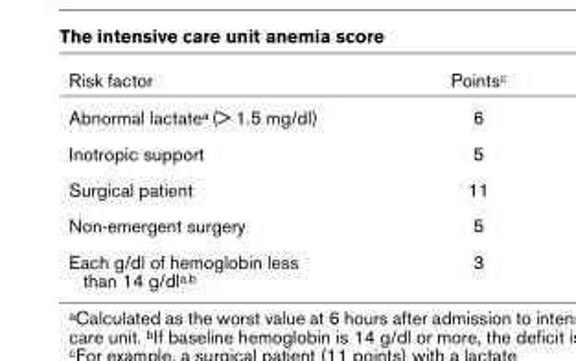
<table><thead><tr><td>Risk factor</td><td>Pointsc</td></tr></thead><tbody><tr><td>Abnormal lactatea (&gt; 1.5 mg/dl)</td><td>6</td></tr><tr><td>Inotropic support</td><td>5</td></tr><tr><td>Surgical patient</td><td>11</td></tr><tr><td>Non-emergent surgery</td><td>5</td></tr><tr><td>Each g/dl of hemoglobin less than 14 g/dla,b</td><td>3</td></tr></tbody></table>